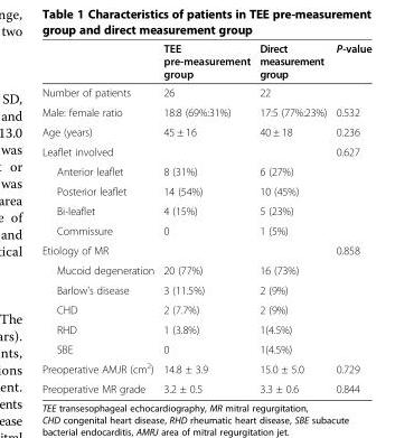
<table><thead><tr><td></td><td>TEE pre-measurement group</td><td>Direct measurement group</td><td>P-value</td></tr></thead><tbody><tr><td>Number of patients</td><td>26</td><td>22</td><td></td></tr><tr><td>Male: female ratio</td><td>18:8 (69%:31%)</td><td>17:5 (77%:23%)</td><td>0.532</td></tr><tr><td>Age (years)</td><td>45 ± 16</td><td>40 ± 18</td><td>0.236</td></tr><tr><td>Leaflet involved</td><td></td><td></td><td>0.627</td></tr><tr><td>Anterior leaflet</td><td>8 (31%)</td><td>6 (27%)</td><td></td></tr><tr><td>Posterior leaflet</td><td>14 (54%)</td><td>10 (45%)</td><td></td></tr><tr><td>Bi-leaflet</td><td>4 (15%)</td><td>5 (23%)</td><td></td></tr><tr><td>Commissure</td><td>0</td><td>1 (5%)</td><td></td></tr><tr><td>Etiology of MR</td><td></td><td></td><td>0.858</td></tr><tr><td>Mucoid degeneration</td><td>20 (77%)</td><td>16 (73%)</td><td></td></tr><tr><td>Barlow&#x27;s disease</td><td>3 (11.5%)</td><td>2 (9%)</td><td></td></tr><tr><td>CHD</td><td>2 (7.7%)</td><td>2 (9%)</td><td></td></tr><tr><td>RHD</td><td>1 (3.8%)</td><td>1(4.5%)</td><td></td></tr><tr><td>SBE</td><td>0</td><td>1(4.5%)</td><td></td></tr><tr><td>Preoperative AMJR (cm<sup>2</sup>)</td><td>14.8 ± 3.9</td><td>15.0 ± 5.0</td><td>0.729</td></tr><tr><td>Preoperative MR grade</td><td>3.2 ± 0.5</td><td>3.3 ± 0.6</td><td>0.844</td></tr></tbody></table>